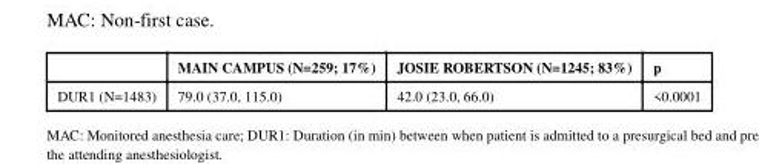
<table><thead><tr><td></td><td>MAIN CAMPUS (N=259; 17%)</td><td>JOSIE ROBERTSON (N=1245; 83%)</td><td>p</td></tr></thead><tbody><tr><td>DUR1 (N=1483)</td><td>79.0 (37.0, 115.0)</td><td>42.0 (23.0, 66.0)</td><td>&lt;0.0001</td></tr></tbody></table>